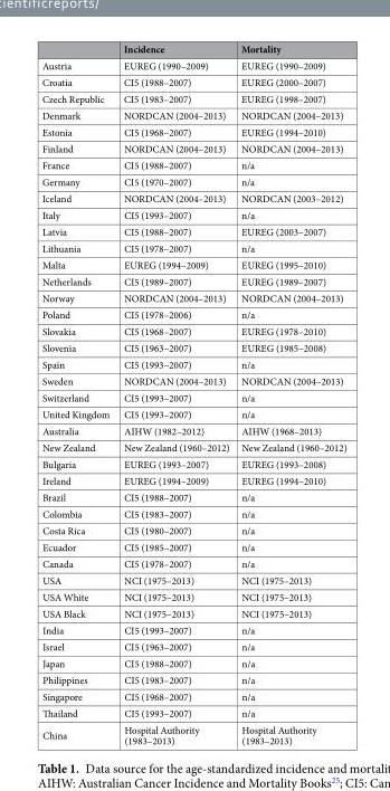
<table><thead><tr><td></td><td>Incidence</td><td>Mortality</td></tr></thead><tbody><tr><td>Austria</td><td>EUREG (1990–2009)</td><td>EUREG (1990–2009)</td></tr><tr><td>Croatia</td><td>CI5 (1988–2007)</td><td>EUREG (2000–2007)</td></tr><tr><td>Czech Republic</td><td>CI5 (1983–2007)</td><td>EUREG (1998–2007)</td></tr><tr><td>Denmark</td><td>NORDCAN (2004–2013)</td><td>NORDCAN (2004–2013)</td></tr><tr><td>Estonia</td><td>CI5 (1968–2007)</td><td>EUREG (1994–2010)</td></tr><tr><td>Finland</td><td>NORDCAN (2004–2013)</td><td>NORDCAN (2004–2013)</td></tr><tr><td>France</td><td>CI5 (1988–2007)</td><td>n/a</td></tr><tr><td>Germany</td><td>CI5 (1970–2007)</td><td>n/a</td></tr><tr><td>Iceland</td><td>NORDCAN (2004–2013)</td><td>NORDCAN (2003–2012)</td></tr><tr><td>Italy</td><td>CI5 (1993–2007)</td><td>n/a</td></tr><tr><td>Latvia</td><td>CI5 (1988–2007)</td><td>EUREG (2003–2007)</td></tr><tr><td>Lithuania</td><td>CI5 (1978–2007)</td><td>n/a</td></tr><tr><td>Malta</td><td>EUREG (1994–2009)</td><td>EUREG (1995–2010)</td></tr><tr><td>Netherlands</td><td>CI5 (1989–2007)</td><td>EUREG (1989–2007)</td></tr><tr><td>Norway</td><td>NORDCAN (2004–2013)</td><td>NORDCAN (2004–2013)</td></tr><tr><td>Poland</td><td>CI5 (1978–2006)</td><td>n/a</td></tr><tr><td>Slovakia</td><td>CI5 (1968–2007)</td><td>EUREG (1978–2010)</td></tr><tr><td>Slovenia</td><td>CI5 (1963–2007)</td><td>EUREG (1985–2008)</td></tr><tr><td>Spain</td><td>CI5 (1993–2007)</td><td>n/a</td></tr><tr><td>Sweden</td><td>NORDCAN (2004–2013)</td><td>NORDCAN (2004–2013)</td></tr><tr><td>Switzerland</td><td>CI5 (1993–2007)</td><td>n/a</td></tr><tr><td>United Kingdom</td><td>CI5 (1993–2007)</td><td>n/a</td></tr><tr><td>Australia</td><td>AIHW (1982–2012)</td><td>AIHW (1968–2013)</td></tr><tr><td>New Zealand</td><td>New Zealand (1960–2012)</td><td>New Zealand (1960–2012)</td></tr><tr><td>Bulgaria</td><td>EUREG (1993–2007)</td><td>EUREG (1993–2008)</td></tr><tr><td>Ireland</td><td>EUREG (1994–2009)</td><td>EUREG (1994–2010)</td></tr><tr><td>Brazil</td><td>CI5 (1988–2007)</td><td>n/a</td></tr><tr><td>Colombia</td><td>CI5 (1983–2007)</td><td>n/a</td></tr><tr><td>Costa Rica</td><td>CI5 (1980–2007)</td><td>n/a</td></tr><tr><td>Ecuador</td><td>CI5 (1985–2007)</td><td>n/a</td></tr><tr><td>Canada</td><td>CI5 (1978–2007)</td><td>n/a</td></tr><tr><td>USA</td><td>NCI (1975–2013)</td><td>NCI (1975–2013)</td></tr><tr><td>USA White</td><td>NCI (1975–2013)</td><td>NCI (1975–2013)</td></tr><tr><td>USA Black</td><td>NCI (1975–2013)</td><td>NCI (1975–2013)</td></tr><tr><td>India</td><td>CI5 (1993–2007)</td><td>n/a</td></tr><tr><td>Israel</td><td>CI5 (1963–2007)</td><td>n/a</td></tr><tr><td>Japan</td><td>CI5 (1988–2007)</td><td>n/a</td></tr><tr><td>Philippines</td><td>CI5 (1983–2007)</td><td>n/a</td></tr><tr><td>Singapore</td><td>CI5 (1968–2007)</td><td>n/a</td></tr><tr><td>Thailand</td><td>CI5 (1993–2007)</td><td>n/a</td></tr><tr><td>China</td><td>Hospital Authority (1983–2013)</td><td>Hospital Authority (1983–2013)</td></tr></tbody></table>